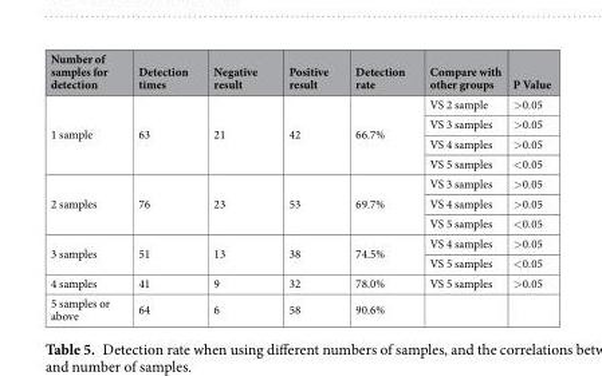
<table><thead><tr><td>Number of samples for detection</td><td>Detection times</td><td>Negative result</td><td>Positive result</td><td>Detection rate</td><td>Compare with other groups</td><td>P Value</td></tr></thead><tbody><tr><td rowspan="4">1 sample</td><td rowspan="4">63</td><td rowspan="4">21</td><td rowspan="4">42</td><td rowspan="4">66.7%</td><td>VS 2 sample</td><td>&gt;0.05</td></tr><tr><td>VS 3 samples</td><td>&gt;0.05</td></tr><tr><td>VS 4 samples</td><td>&gt;0.05</td></tr><tr><td>VS 5 samples</td><td>&lt;0.05</td></tr><tr><td rowspan="3">2 samples</td><td rowspan="3">76</td><td rowspan="3">23</td><td rowspan="3">53</td><td rowspan="3">69.7%</td><td>VS 3 samples</td><td>&gt;0.05</td></tr><tr><td>VS 4 samples</td><td>&gt;0.05</td></tr><tr><td>VS 5 samples</td><td>&lt;0.05</td></tr><tr><td rowspan="2">3 samples</td><td rowspan="2">51</td><td rowspan="2">13</td><td rowspan="2">38</td><td rowspan="2">74.5%</td><td>VS 4 samples</td><td>&gt;0.05</td></tr><tr><td>VS 5 samples</td><td>&lt;0.05</td></tr><tr><td>4 samples</td><td>41</td><td>9</td><td>32</td><td>78.0%</td><td>VS 5 samples</td><td>&gt;0.05</td></tr><tr><td>5 samples or above</td><td>64</td><td>6</td><td>58</td><td>90.6%</td><td></td><td></td></tr></tbody></table>